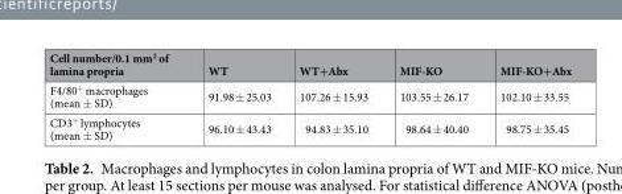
<table><thead><tr><td>Cell number/0.1 mm<sup>2</sup> of lamina propria</td><td>WT</td><td>WT+Abx</td><td>MIF-KO</td><td>MIF-KO+Abx</td></tr></thead><tbody><tr><td>F4/80<sup>+</sup> macrophages (mean ± SD)</td><td>91.98 ± 25.03</td><td>107.26 ± 15.93</td><td>103.55 ± 26.17</td><td>102.10 ± 33.55</td></tr><tr><td>CD3<sup>+</sup> lymphocytes (mean ± SD)</td><td>96.10 ± 43.43</td><td>94.83 ± 35.10</td><td>98.64 ± 40.40</td><td>98.75 ± 35.45</td></tr></tbody></table>